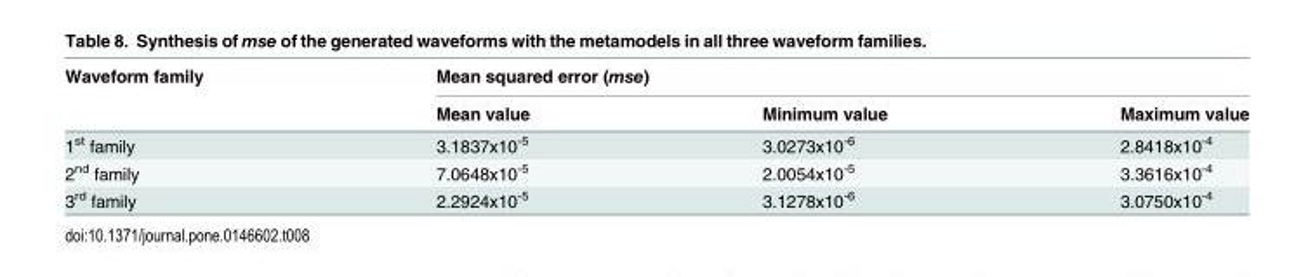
<table><thead><tr><td rowspan="2">Waveform family</td><td colspan="3">Mean squared error (mse)</td></tr><tr><td>Mean value</td><td>Minimum value</td><td>Maximum value</td></tr></thead><tbody><tr><td>1<sup>st</sup> family</td><td>3.1837x10<sup>-5</sup></td><td>3.0273x10<sup>-6</sup></td><td>2.8418x10<sup>-4</sup></td></tr><tr><td>2<sup>nd</sup> family</td><td>7.0648x10<sup>-5</sup></td><td>2.0054x10<sup>-5</sup></td><td>3.3616x10<sup>-4</sup></td></tr><tr><td>3<sup>rd</sup> family</td><td>2.2924x10<sup>-5</sup></td><td>3.1278x10<sup>-6</sup></td><td>3.0750x10<sup>-4</sup></td></tr></tbody></table>